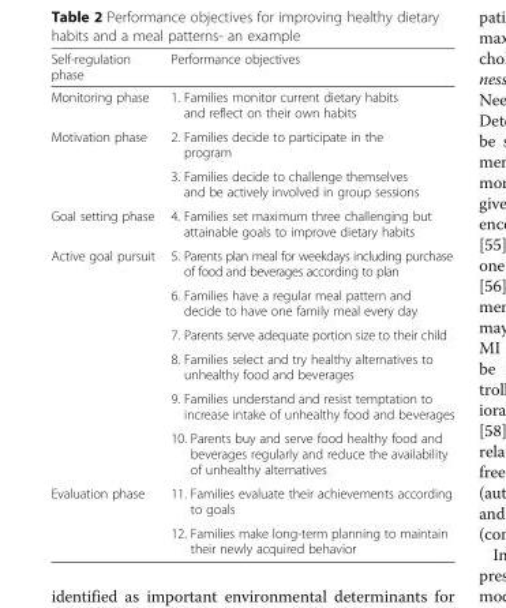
<table><thead><tr><td>Self-regulation phase</td><td>Performance objectives</td></tr></thead><tbody><tr><td>Monitoring phase</td><td>1. Families monitor current dietary habits and reflect on their own habits</td></tr><tr><td rowspan="2">Motivation phase</td><td>2. Families decide to participate in the program</td></tr><tr><td>3. Families decide to challenge themselves and be actively involved in group sessions</td></tr><tr><td>Goal setting phase</td><td>4. Families set maximum three challenging but attainable goals to improve dietary habits</td></tr><tr><td rowspan="6">Active goal pursuit</td><td>5. Parents plan meal for weekdays including purchase of food and beverages according to plan</td></tr><tr><td>6. Families have a regular meal pattern and decide to have one family meal every day</td></tr><tr><td>7. Parents serve adequate portion size to their child</td></tr><tr><td>8. Families select and try healthy alternatives to unhealthy food and beverages</td></tr><tr><td>9. Families understand and resist temptation to increase intake of unhealthy food and beverages</td></tr><tr><td>10. Parents buy and serve food healthy food and beverages regularly and reduce the availability of unhealthy alternatives</td></tr><tr><td rowspan="2">Evaluation phase</td><td>11. Families evaluate their achievements according to goals</td></tr><tr><td>12. Families make long-term planning to maintain their newly acquired behavior</td></tr></tbody></table>